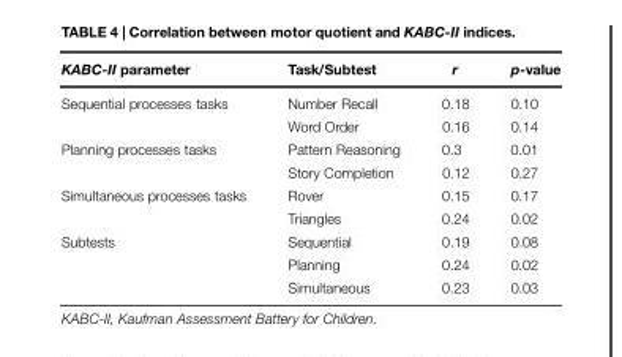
<table><thead><tr><td>KABC-II parameter</td><td>Task/Subtest</td><td>r</td><td>p-value</td></tr></thead><tbody><tr><td rowspan="2">Sequential processes tasks</td><td>Number Recall</td><td>0.18</td><td>0.10</td></tr><tr><td>Word Order</td><td>0.16</td><td>0.14</td></tr><tr><td rowspan="2">Planning processes tasks</td><td>Pattern Reasoning</td><td>0.3</td><td>0.01</td></tr><tr><td>Story Completion</td><td>0.12</td><td>0.27</td></tr><tr><td rowspan="2">Simultaneous processes tasks</td><td>Rover</td><td>0.15</td><td>0.17</td></tr><tr><td>Triangles</td><td>0.24</td><td>0.02</td></tr><tr><td rowspan="3">Subtests</td><td>Sequential</td><td>0.19</td><td>0.08</td></tr><tr><td>Planning</td><td>0.24</td><td>0.02</td></tr><tr><td>Simultaneous</td><td>0.23</td><td>0.03</td></tr></tbody></table>